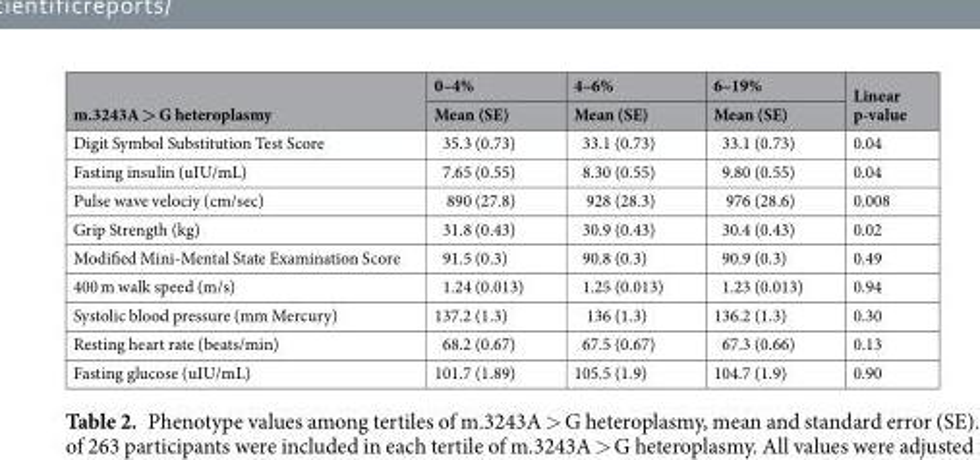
<table><thead><tr><td rowspan="2">m.3243A &gt; G heteroplasmy</td><td rowspan="2">0–4% Mean (SE)</td><td rowspan="2">4–6% Mean (SE)</td><td rowspan="2">6–19% Mean (SE)</td><td rowspan="2">Linear p-value</td></tr><tr></tr></thead><tbody><tr><td>Digit Symbol Substitution Test Score</td><td>35.3 (0.73)</td><td>33.1 (0.73)</td><td>33.1 (0.73)</td><td>0.04</td></tr><tr><td>Fasting insulin (uIU/mL)</td><td>7.65 (0.55)</td><td>8.30 (0.55)</td><td>9.80 (0.55)</td><td>0.04</td></tr><tr><td>Pulse wave velociy (cm/sec)</td><td>890 (27.8)</td><td>928 (28.3)</td><td>976 (28.6)</td><td>0.008</td></tr><tr><td>Grip Strength (kg)</td><td>31.8 (0.43)</td><td>30.9 (0.43)</td><td>30.4 (0.43)</td><td>0.02</td></tr><tr><td>Modified Mini-Mental State Examination Score</td><td>91.5 (0.3)</td><td>90.8 (0.3)</td><td>90.9 (0.3)</td><td>0.49</td></tr><tr><td>400 m walk speed (m/s)</td><td>1.24 (0.013)</td><td>1.25 (0.013)</td><td>1.23 (0.013)</td><td>0.94</td></tr><tr><td>Systolic blood pressure (mm Mercury)</td><td>137.2 (1.3)</td><td>136 (1.3)</td><td>136.2 (1.3)</td><td>0.30</td></tr><tr><td>Resting heart rate (beats/min)</td><td>68.2 (0.67)</td><td>67.5 (0.67)</td><td>67.3 (0.66)</td><td>0.13</td></tr><tr><td>Fasting glucose (uIU/mL)</td><td>101.7 (1.89)</td><td>105.5 (1.9)</td><td>104.7 (1.9)</td><td>0.90</td></tr></tbody></table>